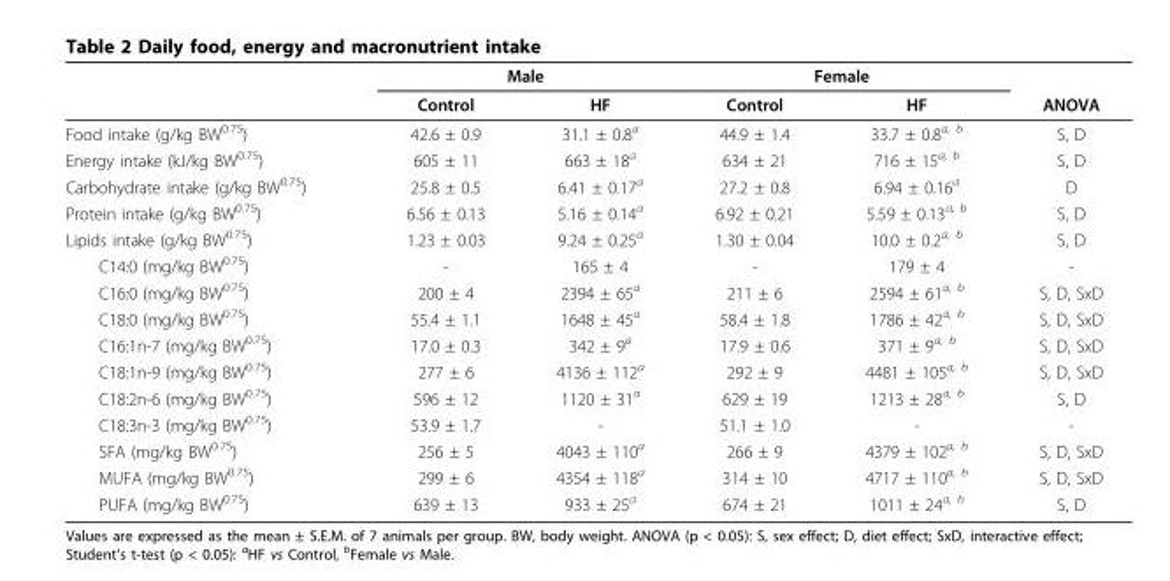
<table><thead><tr><td rowspan="2"></td><td colspan="2">Male</td><td colspan="2">Female</td><td rowspan="2">ANOVA</td></tr><tr><td>Control</td><td>HF</td><td>Control</td><td>HF</td></tr></thead><tbody><tr><td>Food intake (g/kg BW<sup>0.75</sup>)</td><td>42.6 ± 0.9</td><td>31.1 ± 0.8<sup>a</sup></td><td>44.9 ± 1.4</td><td>33.7 ± 0.8<sup>a, b</sup></td><td>S, D</td></tr><tr><td>Energy intake (kJ/kg BW<sup>0.75</sup>)</td><td>605 ± 11</td><td>663 ± 18<sup>a</sup></td><td>634 ± 21</td><td>716 ± 15<sup>a, b</sup></td><td>S, D</td></tr><tr><td>Carbohydrate intake (g/kg BW<sup>0.75</sup>)</td><td>25.8 ± 0.5</td><td>6.41 ± 0.17<sup>a</sup></td><td>27.2 ± 0.8</td><td>6.94 ± 0.16<sup>a</sup></td><td>D</td></tr><tr><td>Protein intake (g/kg BW<sup>0.75</sup>)</td><td>6.56 ± 0.13</td><td>5.16 ± 0.14<sup>a</sup></td><td>6.92 ± 0.21</td><td>5.59 ± 0.13<sup>a, b</sup></td><td>S, D</td></tr><tr><td>Lipids intake (g/kg BW<sup>0.75</sup>)</td><td>1.23 ± 0.03</td><td>9.24 ± 0.25<sup>a</sup></td><td>1.30 ± 0.04</td><td>10.0 ± 0.2<sup>a, b</sup></td><td>S, D</td></tr><tr><td>C14:0 (mg/kg BW<sup>0.75</sup>)</td><td>-</td><td>165 ± 4</td><td>-</td><td>179 ± 4</td><td>-</td></tr><tr><td>C16:0 (mg/kg BW<sup>0.75</sup>)</td><td>200 ± 4</td><td>2394 ± 65<sup>a</sup></td><td>211 ± 6</td><td>2594 ± 61<sup>a, b</sup></td><td>S, D, SxD</td></tr><tr><td>C18:0 (mg/kg BW<sup>0.75</sup>)</td><td>55.4 ± 1.1</td><td>1648 ± 45<sup>a</sup></td><td>58.4 ± 1.8</td><td>1786 ± 42<sup>a, b</sup></td><td>S, D, SxD</td></tr><tr><td>C16:1n-7 (mg/kg BW<sup>0.75</sup>)</td><td>17.0 ± 0.3</td><td>342 ± 9<sup>a</sup></td><td>17.9 ± 0.6</td><td>371 ± 9<sup>a, b</sup></td><td>S, D, SxD</td></tr><tr><td>C18:1n-9 (mg/kg BW<sup>0.75</sup>)</td><td>277 ± 6</td><td>4136 ± 112<sup>a</sup></td><td>292 ± 9</td><td>4481 ± 105<sup>a, b</sup></td><td>S, D, SxD</td></tr><tr><td>C18:2n-6 (mg/kg BW<sup>0.75</sup>)</td><td>596 ± 12</td><td>1120 ± 31<sup>a</sup></td><td>629 ± 19</td><td>1213 ± 28<sup>a, b</sup></td><td>S, D</td></tr><tr><td>C18:3n-3 (mg/kg BW<sup>0.75</sup>)</td><td>53.9 ± 1.7</td><td>-</td><td>51.1 ± 1.0</td><td>-</td><td>-</td></tr><tr><td>SFA (mg/kg BW<sup>0.75</sup>)</td><td>256 ± 5</td><td>4043 ± 110<sup>a</sup></td><td>266 ± 9</td><td>4379 ± 102<sup>a, b</sup></td><td>S, D, SxD</td></tr><tr><td>MUFA (mg/kg BW<sup>0.75</sup>)</td><td>299 ± 6</td><td>4354 ± 118<sup>a</sup></td><td>314 ± 10</td><td>4717 ± 110<sup>a, b</sup></td><td>S, D, SxD</td></tr><tr><td>PUFA (mg/kg BW<sup>0.75</sup>)</td><td>639 ± 13</td><td>933 ± 25<sup>a</sup></td><td>674 ± 21</td><td>1011 ± 24<sup>a, b</sup></td><td>S, D</td></tr></tbody></table>